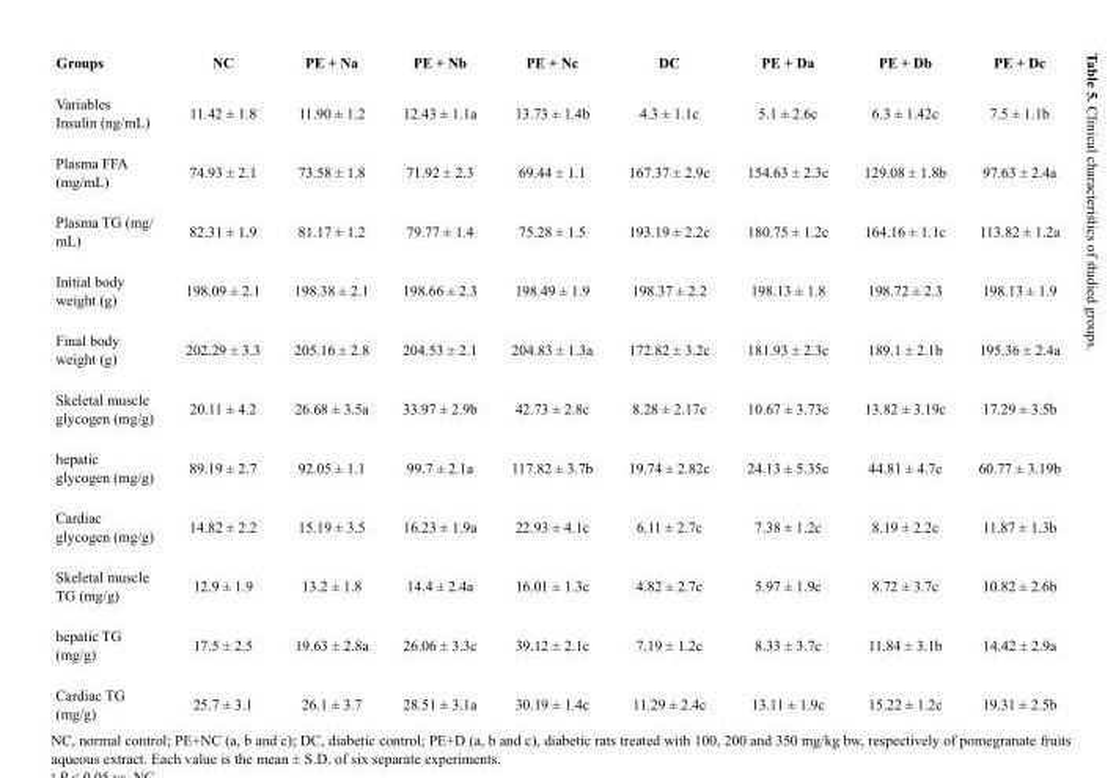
<table><thead><tr><td>Groups</td><td>NC</td><td>PE + Na</td><td>PE + Nb</td><td>PE + Nc</td><td>DC</td><td>PE + Da</td><td>PE + Db</td><td>PE + Dc</td></tr></thead><tbody><tr><td>Variables Insulin (ng/mL)</td><td>11.42 ± 1.8</td><td>11.90 ± 1.2</td><td>12.43 ± 1.1<sup>a</sup></td><td>13.73 ± 1.4<sup>b</sup></td><td>4.3 ± 1.1<sup>c</sup></td><td>5.1 ± 2.6<sup>c</sup></td><td>6.3 ± 1.42<sup>c</sup></td><td>7.5 ± 1.1<sup>b</sup></td></tr><tr><td>Plasma FFA (mg/mL)</td><td>74.93 ± 2.1</td><td>73.58 ± 1.8</td><td>71.92 ± 2.3</td><td>69.44 ± 1.1</td><td>167.37 ± 2.9<sup>c</sup></td><td>154.63 ± 2.3<sup>c</sup></td><td>129.08 ± 1.8<sup>b</sup></td><td>97.63 ± 2.4<sup>a</sup></td></tr><tr><td>Plasma TG (mg/ mL)</td><td>82.31 ± 1.9</td><td>81.17 ± 1.2</td><td>79.77 ± 1.4</td><td>75.28 ± 1.5</td><td>193.19 ± 2.2<sup>c</sup></td><td>180.75 ± 1.2<sup>c</sup></td><td>164.16 ± 1.1<sup>c</sup></td><td>113.82 ± 1.2<sup>a</sup></td></tr><tr><td>Initial body weight (g)</td><td>198.09 ± 2.1</td><td>198.38 ± 2.1</td><td>198.66 ± 2.3</td><td>198.49 ± 1.9</td><td>198.37 ± 2.2</td><td>198.13 ± 1.8</td><td>198.72 ± 2.3</td><td>198.13 ± 1.9</td></tr><tr><td>Final body weight (g)</td><td>202.29 ± 3.3</td><td>205.16 ± 2.8</td><td>204.53 ± 2.1</td><td>204.83 ± 1.3<sup>a</sup></td><td>172.82 ± 3.2<sup>c</sup></td><td>181.93 ± 2.3<sup>c</sup></td><td>189.1 ± 2.1<sup>b</sup></td><td>195.36 ± 2.4<sup>a</sup></td></tr><tr><td>Skeletal muscle glycogen (mg/g)</td><td>20.11 ± 4.2</td><td>26.68 ± 3.5<sup>a</sup></td><td>33.97 ± 2.9<sup>b</sup></td><td>42.73 ± 2.8<sup>c</sup></td><td>8.28 ± 2.17<sup>c</sup></td><td>10.67 ± 3.73<sup>c</sup></td><td>13.82 ± 3.19<sup>c</sup></td><td>17.29 ± 3.5<sup>b</sup></td></tr><tr><td>hepatic glycogen (mg/g)</td><td>89.19 ± 2.7</td><td>92.05 ± 1.1</td><td>99.7 ± 2.1<sup>a</sup></td><td>117.82 ± 3.7<sup>b</sup></td><td>19.74 ± 2.82<sup>c</sup></td><td>24.13 ± 5.35<sup>c</sup></td><td>44.81 ± 4.7<sup>c</sup></td><td>60.77 ± 3.19<sup>b</sup></td></tr><tr><td>Cardiac glycogen (mg/g)</td><td>14.82 ± 2.2</td><td>15.19 ± 3.5</td><td>16.23 ± 1.9<sup>a</sup></td><td>22.93 ± 4.1<sup>c</sup></td><td>6.11 ± 2.7<sup>c</sup></td><td>7.38 ± 1.2<sup>c</sup></td><td>8.19 ± 2.2<sup>c</sup></td><td>11.87 ± 1.3<sup>b</sup></td></tr><tr><td>Skeletal muscle TG (mg/g)</td><td>12.9 ± 1.9</td><td>13.2 ± 1.8</td><td>14.4 ± 2.4<sup>a</sup></td><td>16.01 ± 1.3<sup>c</sup></td><td>4.82 ± 2.7<sup>c</sup></td><td>5.97 ± 1.9<sup>c</sup></td><td>8.72 ± 3.7<sup>c</sup></td><td>10.82 ± 2.6<sup>b</sup></td></tr><tr><td>hepatic TG (mg/g)</td><td>17.5 ± 2.5</td><td>19.63 ± 2.8<sup>a</sup></td><td>26.06 ± 3.3<sup>c</sup></td><td>39.12 ± 2.1<sup>c</sup></td><td>7.19 ± 1.2<sup>c</sup></td><td>8.33 ± 3.7<sup>c</sup></td><td>11.84 ± 3.1<sup>b</sup></td><td>14.42 ± 2.9<sup>a</sup></td></tr><tr><td>Cardiac TG (mg/g)</td><td>25.7 ± 3.1</td><td>26.1 ± 3.7</td><td>28.51 ± 3.1<sup>a</sup></td><td>30.19 ± 1.4<sup>c</sup></td><td>11.29 ± 2.4<sup>c</sup></td><td>13.11 ± 1.9<sup>c</sup></td><td>15.22 ± 1.2<sup>c</sup></td><td>19.31 ± 2.5<sup>b</sup></td></tr></tbody></table>